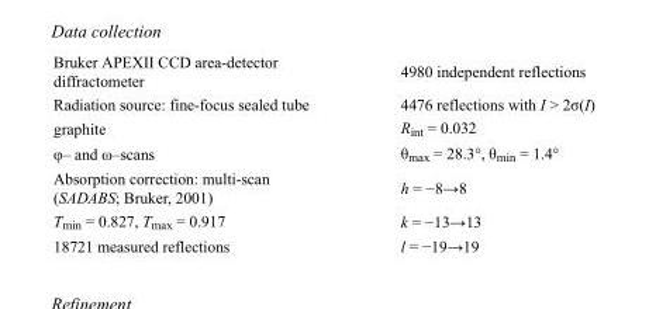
<table><tbody><tr><td>Bruker APEXII CCD area-detector diffractometer</td><td>4980 independent reflections</td></tr><tr><td>Radiation source: fine-focus sealed tube</td><td>4476 reflections with I &gt; 2σ(I)</td></tr><tr><td>graphite</td><td>R<sub>int</sub> = 0.032</td></tr><tr><td>φ– and ω–scans</td><td>θ<sub>max</sub> = 28.3°, θ<sub>min</sub> = 1.4°</td></tr><tr><td>Absorption correction: multi-scan (SADABS; Bruker, 2001)</td><td>h = −8→8</td></tr><tr><td>T<sub>min</sub> = 0.827, T<sub>max</sub> = 0.917</td><td>k = −13→13</td></tr><tr><td>18721 measured reflections</td><td>l = −19→19</td></tr></tbody></table>